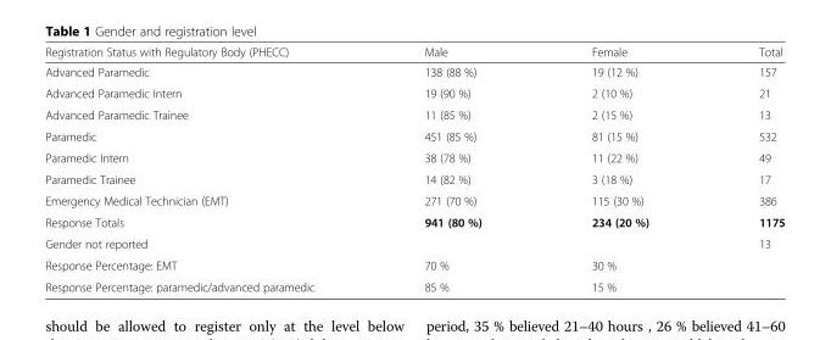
<table><thead><tr><td>Registration Status with Regulatory Body (PHECC)</td><td>Male</td><td>Female</td><td>Total</td></tr></thead><tbody><tr><td>Advanced Paramedic</td><td>138 (88 %)</td><td>19 (12 %)</td><td>157</td></tr><tr><td>Advanced Paramedic Intern</td><td>19 (90 %)</td><td>2 (10 %)</td><td>21</td></tr><tr><td>Advanced Paramedic Trainee</td><td>11 (85 %)</td><td>2 (15 %)</td><td>13</td></tr><tr><td>Paramedic</td><td>451 (85 %)</td><td>81 (15 %)</td><td>532</td></tr><tr><td>Paramedic Intern</td><td>38 (78 %)</td><td>11 (22 %)</td><td>49</td></tr><tr><td>Paramedic Trainee</td><td>14 (82 %)</td><td>3 (18 %)</td><td>17</td></tr><tr><td>Emergency Medical Technician (EMT)</td><td>271 (70 %)</td><td>115 (30 %)</td><td>386</td></tr><tr><td>Response Totals</td><td>941 (80 %)</td><td>234 (20 %)</td><td>1175</td></tr><tr><td>Gender not reported</td><td></td><td></td><td>13</td></tr><tr><td>Response Percentage: EMT</td><td>70 %</td><td>30 %</td><td></td></tr><tr><td>Response Percentage: paramedic/advanced paramedic</td><td>85 %</td><td>15 %</td><td></td></tr></tbody></table>